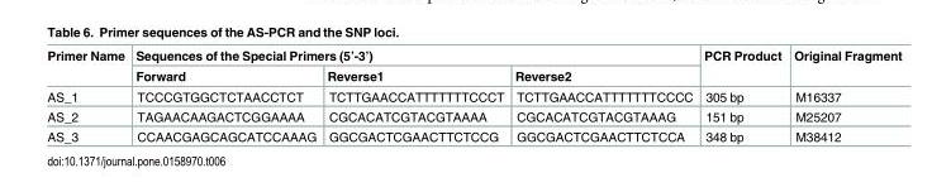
<table><thead><tr><td rowspan="2">Primer Name</td><td colspan="3">Sequences of the Special Primers (5’-3’)</td><td rowspan="2">PCR Product</td><td rowspan="2">Original Fragment</td></tr><tr><td>Forward</td><td>Reverse1</td><td>Reverse2</td></tr></thead><tbody><tr><td>AS_1</td><td>TCCCGTGGCTCTAACCTCT</td><td>TCTTGAACCATTTTTTTCCCT</td><td>TCTTGAACCATTTTTTTCCCC</td><td>305 bp</td><td>M16337</td></tr><tr><td>AS_2</td><td>TAGAACAAGACTCGGAAAA</td><td>CGCACATCGTACGTAAAA</td><td>CGCACATCGTACGTAAAG</td><td>151 bp</td><td>M25207</td></tr><tr><td>AS_3</td><td>CCAACGAGCAGCATCCAAAG</td><td>GGCGACTCGAACTTCTCCG</td><td>GGCGACTCGAACTTCTCCA</td><td>348 bp</td><td>M38412</td></tr></tbody></table>